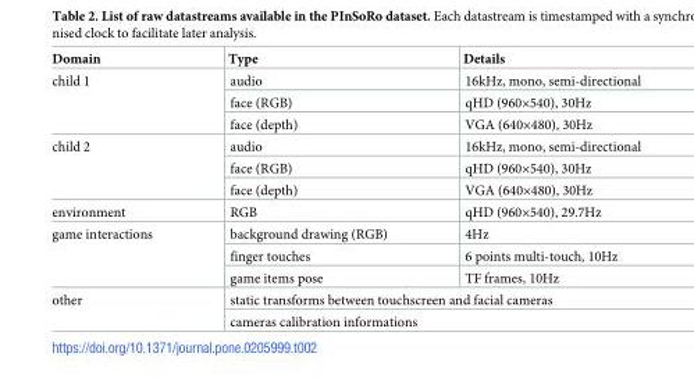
<table><thead><tr><td>Domain</td><td>Type</td><td>Details</td></tr></thead><tbody><tr><td rowspan="3">child 1</td><td>audio</td><td>16kHz, mono, semi-directional</td></tr><tr><td>face (RGB)</td><td>qHD (960×540), 30Hz</td></tr><tr><td>face (depth)</td><td>VGA (640×480), 30Hz</td></tr><tr><td rowspan="3">child 2</td><td>audio</td><td>16kHz, mono, semi-directional</td></tr><tr><td>face (RGB)</td><td>qHD (960×540), 30Hz</td></tr><tr><td>face (depth)</td><td>VGA (640×480), 30Hz</td></tr><tr><td>environment</td><td>RGB</td><td>qHD (960×540), 29.7Hz</td></tr><tr><td rowspan="3">game interactions</td><td>background drawing (RGB)</td><td>4Hz</td></tr><tr><td>finger touches</td><td>6 points multi-touch, 10Hz</td></tr><tr><td>game items pose</td><td>TF frames, 10Hz</td></tr><tr><td rowspan="2">other</td><td colspan="2">static transforms between touchscreen and facial cameras</td></tr><tr><td colspan="2">cameras calibration informations</td></tr></tbody></table>